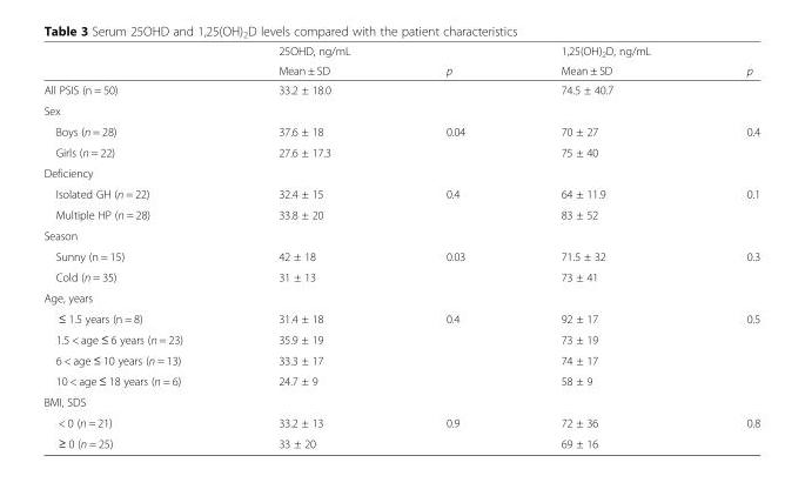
<table><thead><tr><td rowspan="2"></td><td rowspan="2">25OHD, ng/mL Mean ± SD</td><td rowspan="2">p</td><td rowspan="2">1,25(OH)<sub>2</sub>D, ng/mL Mean ± SD</td><td rowspan="2">p</td></tr><tr></tr></thead><tbody><tr><td>All PSIS (n = 50)</td><td>33.2 ± 18.0</td><td></td><td>74.5 ± 40.7</td><td></td></tr><tr><td colspan="5">Sex</td></tr><tr><td>Boys (n = 28)</td><td>37.6 ± 18</td><td rowspan="2">0.04</td><td>70 ± 27</td><td rowspan="2">0.4</td></tr><tr><td>Girls (n = 22)</td><td>27.6 ± 17.3</td><td>75 ± 40</td></tr><tr><td colspan="5">Deficiency</td></tr><tr><td>Isolated GH (n = 22)</td><td>32.4 ± 15</td><td rowspan="2">0.4</td><td>64 ± 11.9</td><td rowspan="2">0.1</td></tr><tr><td>Multiple HP (n = 28)</td><td>33.8 ± 20</td><td>83 ± 52</td></tr><tr><td colspan="5">Season</td></tr><tr><td>Sunny (n = 15)</td><td>42 ± 18</td><td rowspan="2">0.03</td><td>71.5 ± 32</td><td rowspan="2">0.3</td></tr><tr><td>Cold (n = 35)</td><td>31 ± 13</td><td>73 ± 41</td></tr><tr><td colspan="5">Age, years</td></tr><tr><td>≤ 1.5 years (n = 8)</td><td>31.4 ± 18</td><td rowspan="4">0.4</td><td>92 ± 17</td><td rowspan="4">0.5</td></tr><tr><td>1.5 &lt; age ≤ 6 years (n = 23)</td><td>35.9 ± 19</td><td>73 ± 19</td></tr><tr><td>6 &lt; age ≤ 10 years (n = 13)</td><td>33.3 ± 17</td><td>74 ± 17</td></tr><tr><td>10 &lt; age ≤ 18 years (n = 6)</td><td>24.7 ± 9</td><td>58 ± 9</td></tr><tr><td colspan="5">BMI, SDS</td></tr><tr><td>&lt; 0 (n = 21)</td><td>33.2 ± 13</td><td rowspan="2">0.9</td><td>72 ± 36</td><td rowspan="2">0.8</td></tr><tr><td>≥ 0 (n = 25)</td><td>33 ± 20</td><td>69 ± 16</td></tr></tbody></table>